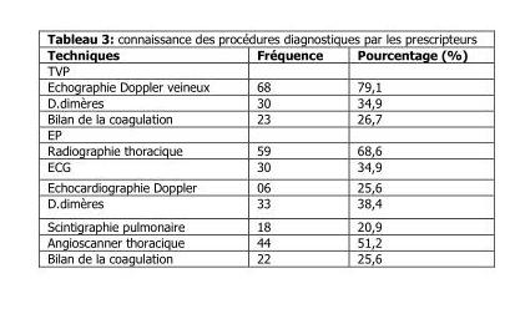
<table><thead><tr><td>Techniques</td><td>Fréquence</td><td>Pourcentage (%)</td></tr></thead><tbody><tr><td colspan="3">TVP</td></tr><tr><td>Echographie Doppler veineux</td><td>68</td><td>79,1</td></tr><tr><td>D.dimères</td><td>30</td><td>34,9</td></tr><tr><td>Bilan de la coagulation</td><td>23</td><td>26,7</td></tr><tr><td colspan="3">EP</td></tr><tr><td>Radiographie thoracique</td><td>59</td><td>68,6</td></tr><tr><td>ECG</td><td>30</td><td>34,9</td></tr><tr><td>Echocardiographie Doppler</td><td>06</td><td>25,6</td></tr><tr><td>D.dimères</td><td>33</td><td>38,4</td></tr><tr><td>Scintigraphie pulmonaire</td><td>18</td><td>20,9</td></tr><tr><td>Angioscanner thoracique</td><td>44</td><td>51,2</td></tr><tr><td>Bilan de la coagulation</td><td>22</td><td>25,6</td></tr></tbody></table>